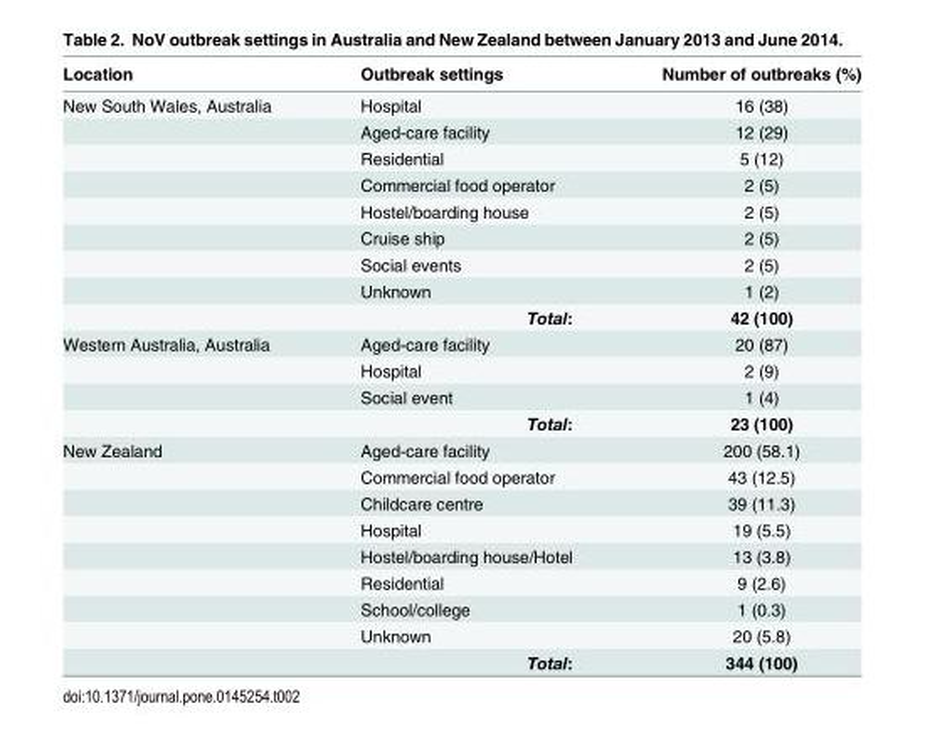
<table><thead><tr><td>Location</td><td>Outbreak settings</td><td>Number of outbreaks (%)</td></tr></thead><tbody><tr><td rowspan="9">New South Wales, Australia</td><td>Hospital</td><td>16 (38)</td></tr><tr><td>Aged-care facility</td><td>12 (29)</td></tr><tr><td>Residential</td><td>5 (12)</td></tr><tr><td>Commercial food operator</td><td>2 (5)</td></tr><tr><td>Hostel/boarding house</td><td>2 (5)</td></tr><tr><td>Cruise ship</td><td>2 (5)</td></tr><tr><td>Social events</td><td>2 (5)</td></tr><tr><td>Unknown</td><td>1 (2)</td></tr><tr><td>Total:</td><td>42 (100)</td></tr><tr><td rowspan="4">Western Australia, Australia</td><td>Aged-care facility</td><td>20 (87)</td></tr><tr><td>Hospital</td><td>2 (9)</td></tr><tr><td>Social event</td><td>1 (4)</td></tr><tr><td>Total:</td><td>23 (100)</td></tr><tr><td rowspan="9">New Zealand</td><td>Aged-care facility</td><td>200 (58.1)</td></tr><tr><td>Commercial food operator</td><td>43 (12.5)</td></tr><tr><td>Childcare centre</td><td>39 (11.3)</td></tr><tr><td>Hospital</td><td>19 (5.5)</td></tr><tr><td>Hostel/boarding house/Hotel</td><td>13 (3.8)</td></tr><tr><td>Residential</td><td>9 (2.6)</td></tr><tr><td>School/college</td><td>1 (0.3)</td></tr><tr><td>Unknown</td><td>20 (5.8)</td></tr><tr><td>Total:</td><td>344 (100)</td></tr></tbody></table>